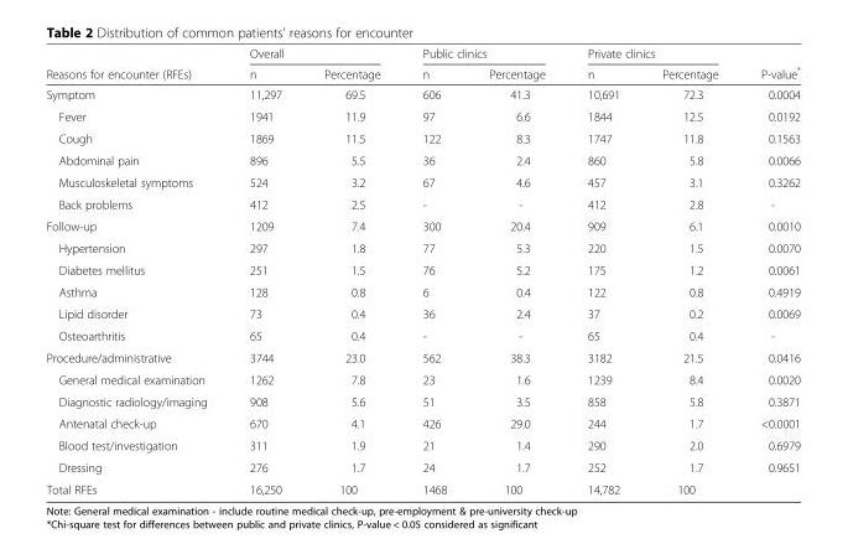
<table><thead><tr><td rowspan="2">Reasons for encounter (RFEs)</td><td colspan="2">Overall</td><td colspan="2">Public clinics</td><td colspan="2">Private clinics</td><td rowspan="2">P-value*</td></tr><tr><td>n</td><td>Percentage</td><td>n</td><td>Percentage</td><td>n</td><td>Percentage</td></tr></thead><tbody><tr><td>Symptom</td><td>11,297</td><td>69.5</td><td>606</td><td>41.3</td><td>10,691</td><td>72.3</td><td>0.0004</td></tr><tr><td>Fever</td><td>1941</td><td>11.9</td><td>97</td><td>6.6</td><td>1844</td><td>12.5</td><td>0.0192</td></tr><tr><td>Cough</td><td>1869</td><td>11.5</td><td>122</td><td>8.3</td><td>1747</td><td>11.8</td><td>0.1563</td></tr><tr><td>Abdominal pain</td><td>896</td><td>5.5</td><td>36</td><td>2.4</td><td>860</td><td>5.8</td><td>0.0066</td></tr><tr><td>Musculoskeletal symptoms</td><td>524</td><td>3.2</td><td>67</td><td>4.6</td><td>457</td><td>3.1</td><td>0.3262</td></tr><tr><td>Back problems</td><td>412</td><td>2.5</td><td>-</td><td>-</td><td>412</td><td>2.8</td><td>-</td></tr><tr><td>Follow-up</td><td>1209</td><td>7.4</td><td>300</td><td>20.4</td><td>909</td><td>6.1</td><td>0.0010</td></tr><tr><td>Hypertension</td><td>297</td><td>1.8</td><td>77</td><td>5.3</td><td>220</td><td>1.5</td><td>0.0070</td></tr><tr><td>Diabetes mellitus</td><td>251</td><td>1.5</td><td>76</td><td>5.2</td><td>175</td><td>1.2</td><td>0.0061</td></tr><tr><td>Asthma</td><td>128</td><td>0.8</td><td>6</td><td>0.4</td><td>122</td><td>0.8</td><td>0.4919</td></tr><tr><td>Lipid disorder</td><td>73</td><td>0.4</td><td>36</td><td>2.4</td><td>37</td><td>0.2</td><td>0.0069</td></tr><tr><td>Osteoarthritis</td><td>65</td><td>0.4</td><td>-</td><td>-</td><td>65</td><td>0.4</td><td>-</td></tr><tr><td>Procedure/administrative</td><td>3744</td><td>23.0</td><td>562</td><td>38.3</td><td>3182</td><td>21.5</td><td>0.0416</td></tr><tr><td>General medical examination</td><td>1262</td><td>7.8</td><td>23</td><td>1.6</td><td>1239</td><td>8.4</td><td>0.0020</td></tr><tr><td>Diagnostic radiology/imaging</td><td>908</td><td>5.6</td><td>51</td><td>3.5</td><td>858</td><td>5.8</td><td>0.3871</td></tr><tr><td>Antenatal check-up</td><td>670</td><td>4.1</td><td>426</td><td>29.0</td><td>244</td><td>1.7</td><td>&lt;0.0001</td></tr><tr><td>Blood test/investigation</td><td>311</td><td>1.9</td><td>21</td><td>1.4</td><td>290</td><td>2.0</td><td>0.6979</td></tr><tr><td>Dressing</td><td>276</td><td>1.7</td><td>24</td><td>1.7</td><td>252</td><td>1.7</td><td>0.9651</td></tr><tr><td>Total RFEs</td><td>16,250</td><td>100</td><td>1468</td><td>100</td><td>14,782</td><td>100</td><td></td></tr></tbody></table>